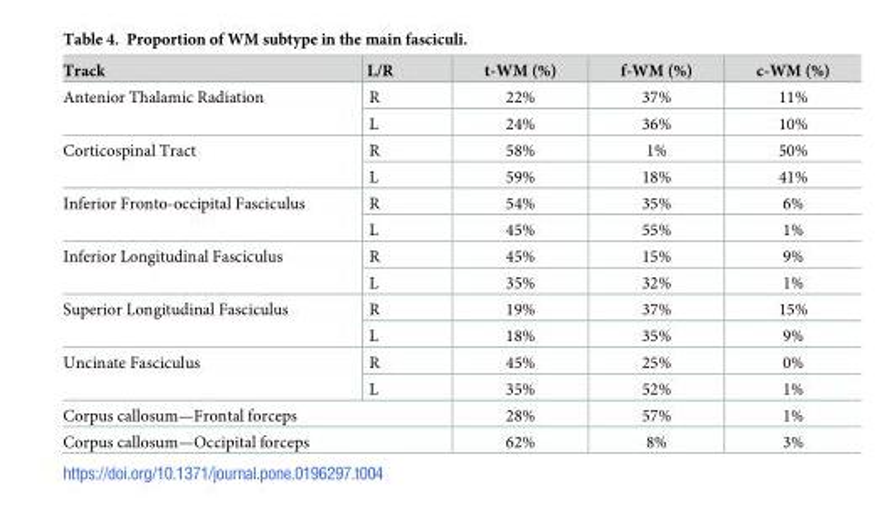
<table><thead><tr><td>Track</td><td>L/R</td><td>t-WM (%)</td><td>f-WM (%)</td><td>c-WM (%)</td></tr></thead><tbody><tr><td rowspan="2">Antenior Thalamic Radiation</td><td>R</td><td>22%</td><td>37%</td><td>11%</td></tr><tr><td>L</td><td>24%</td><td>36%</td><td>10%</td></tr><tr><td rowspan="2">Corticospinal Tract</td><td>R</td><td>58%</td><td>1%</td><td>50%</td></tr><tr><td>L</td><td>59%</td><td>18%</td><td>41%</td></tr><tr><td rowspan="2">Inferior Fronto-occipital Fasciculus</td><td>R</td><td>54%</td><td>35%</td><td>6%</td></tr><tr><td>L</td><td>45%</td><td>55%</td><td>1%</td></tr><tr><td rowspan="2">Inferior Longitudinal Fasciculus</td><td>R</td><td>45%</td><td>15%</td><td>9%</td></tr><tr><td>L</td><td>35%</td><td>32%</td><td>1%</td></tr><tr><td rowspan="2">Superior Longitudinal Fasciculus</td><td>R</td><td>19%</td><td>37%</td><td>15%</td></tr><tr><td>L</td><td>18%</td><td>35%</td><td>9%</td></tr><tr><td rowspan="2">Uncinate Fasciculus</td><td>R</td><td>45%</td><td>25%</td><td>0%</td></tr><tr><td>L</td><td>35%</td><td>52%</td><td>1%</td></tr><tr><td colspan="2">Corpus callosum—Frontal forceps</td><td>28%</td><td>57%</td><td>1%</td></tr><tr><td colspan="2">Corpus callosum—Occipital forceps</td><td>62%</td><td>8%</td><td>3%</td></tr></tbody></table>